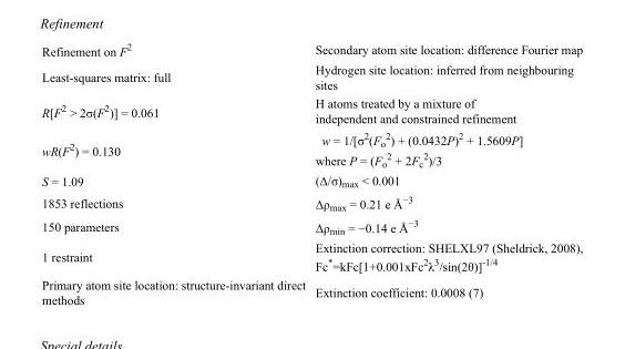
<table><tbody><tr><td>Refinement on F<sup>2</sup></td><td>Secondary atom site location: difference Fourier map</td></tr><tr><td>Least-squares matrix: full</td><td>Hydrogen site location: inferred from neighbouring sites</td></tr><tr><td>R[F<sup>2</sup> &gt; 2σ(F<sup>2</sup>)] = 0.061</td><td>H atoms treated by a mixture of independent and constrained refinement</td></tr><tr><td>wR(F<sup>2</sup>) = 0.130</td><td>w = 1/[σ<sup>2</sup>(F<sub>o</sub> <sup>2</sup>) + (0.0432P)<sup>2</sup> + 1.5609P] where P = (F<sub>o</sub> <sup>2</sup> + 2F<sub>c</sub> <sup>2</sup>)/3</td></tr><tr><td>S = 1.09</td><td>(Δ/σ)<sub>max</sub> &lt; 0.001</td></tr><tr><td>1853 reflections</td><td>Δρ<sub>max</sub> = 0.21 e Å<sup>−3</sup></td></tr><tr><td>150 parameters</td><td>Δρ<sub>min</sub> = −0.14 e Å<sup>−3</sup></td></tr><tr><td>1 restraint</td><td>Extinction correction: SHELXL97 (Sheldrick, 2008), Fc*=kFc[1+0.001xFc<sup>2</sup>λ<sup>3</sup>/sin(2θ)]<sup>-1/4</sup></td></tr><tr><td>Primary atom site location: structure-invariant direct methods</td><td>Extinction coefficient: 0.0008 (7)</td></tr></tbody></table>